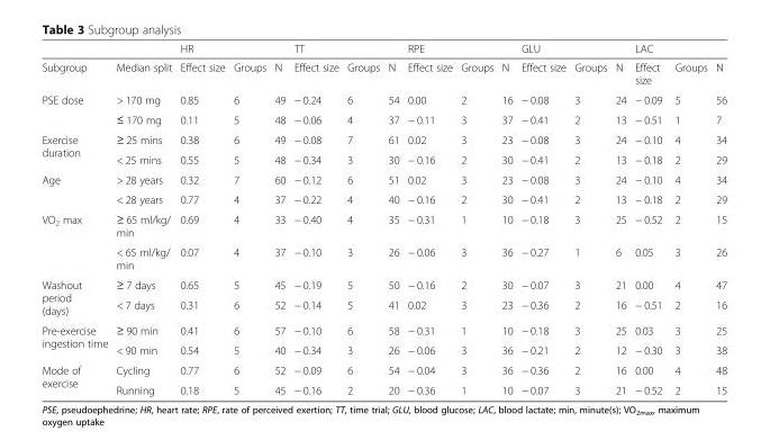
<table><thead><tr><td rowspan="2">Subgroup</td><td rowspan="2">Median split</td><td colspan="3">HR</td><td colspan="3">TT</td><td colspan="3">RPE</td><td colspan="3">GLU</td><td colspan="3">LAC</td></tr><tr><td>Effect size</td><td>Groups</td><td>N</td><td>Effect size</td><td>Groups</td><td>N</td><td>Effect size</td><td>Groups</td><td>N</td><td>Effect size</td><td>Groups</td><td>N</td><td>Effect size</td><td>Groups</td><td>N</td></tr></thead><tbody><tr><td rowspan="2">PSE dose</td><td>&gt; 170 mg</td><td>0.85</td><td>6</td><td>49</td><td>− 0.24</td><td>6</td><td>54</td><td>0.00</td><td>2</td><td>16</td><td>− 0.08</td><td>3</td><td>24</td><td>− 0.09</td><td>5</td><td>56</td></tr><tr><td>≤ 170 mg</td><td>0.11</td><td>5</td><td>48</td><td>− 0.06</td><td>4</td><td>37</td><td>− 0.11</td><td>3</td><td>37</td><td>− 0.41</td><td>2</td><td>13</td><td>− 0.51</td><td>1</td><td>7</td></tr><tr><td rowspan="2">Exercise duration</td><td>≥ 25 mins</td><td>0.38</td><td>6</td><td>49</td><td>− 0.08</td><td>7</td><td>61</td><td>0.02</td><td>3</td><td>23</td><td>− 0.08</td><td>3</td><td>24</td><td>− 0.10</td><td>4</td><td>34</td></tr><tr><td>&lt; 25 mins</td><td>0.55</td><td>5</td><td>48</td><td>− 0.34</td><td>3</td><td>30</td><td>− 0.16</td><td>2</td><td>30</td><td>− 0.41</td><td>2</td><td>13</td><td>− 0.18</td><td>2</td><td>29</td></tr><tr><td rowspan="2">Age</td><td>&gt; 28 years</td><td>0.32</td><td>7</td><td>60</td><td>− 0.12</td><td>6</td><td>51</td><td>0.02</td><td>3</td><td>23</td><td>− 0.08</td><td>3</td><td>24</td><td>− 0.10</td><td>4</td><td>34</td></tr><tr><td>&lt; 28 years</td><td>0.77</td><td>4</td><td>37</td><td>− 0.22</td><td>4</td><td>40</td><td>− 0.16</td><td>2</td><td>30</td><td>− 0.41</td><td>2</td><td>13</td><td>− 0.18</td><td>2</td><td>29</td></tr><tr><td rowspan="2">VO<sub>2</sub> max</td><td>≥ 65 ml/kg/ min</td><td>0.69</td><td>4</td><td>33</td><td>− 0.40</td><td>4</td><td>35</td><td>− 0.31</td><td>1</td><td>10</td><td>− 0.18</td><td>3</td><td>25</td><td>− 0.52</td><td>2</td><td>15</td></tr><tr><td>&lt; 65 ml/kg/ min</td><td>0.07</td><td>4</td><td>37</td><td>− 0.10</td><td>3</td><td>26</td><td>− 0.06</td><td>3</td><td>36</td><td>− 0.27</td><td>1</td><td>6</td><td>0.05</td><td>3</td><td>26</td></tr><tr><td rowspan="2">Washout period (days)</td><td>≥ 7 days</td><td>0.65</td><td>5</td><td>45</td><td>− 0.19</td><td>5</td><td>50</td><td>− 0.16</td><td>2</td><td>30</td><td>− 0.07</td><td>3</td><td>21</td><td>0.00</td><td>4</td><td>47</td></tr><tr><td>&lt; 7 days</td><td>0.31</td><td>6</td><td>52</td><td>− 0.14</td><td>5</td><td>41</td><td>0.02</td><td>3</td><td>23</td><td>− 0.36</td><td>2</td><td>16</td><td>− 0.51</td><td>2</td><td>16</td></tr><tr><td rowspan="2">Pre-exercise ingestion time</td><td>≥ 90 min</td><td>0.41</td><td>6</td><td>57</td><td>− 0.10</td><td>6</td><td>58</td><td>− 0.31</td><td>1</td><td>10</td><td>− 0.18</td><td>3</td><td>25</td><td>0.03</td><td>3</td><td>25</td></tr><tr><td>&lt; 90 min</td><td>0.54</td><td>5</td><td>40</td><td>− 0.34</td><td>3</td><td>26</td><td>− 0.06</td><td>3</td><td>36</td><td>− 0.21</td><td>2</td><td>12</td><td>− 0.30</td><td>3</td><td>38</td></tr><tr><td rowspan="2">Mode of exercise</td><td>Cycling</td><td>0.77</td><td>6</td><td>52</td><td>− 0.09</td><td>6</td><td>54</td><td>− 0.04</td><td>3</td><td>36</td><td>− 0.36</td><td>2</td><td>16</td><td>0.00</td><td>4</td><td>48</td></tr><tr><td>Running</td><td>0.18</td><td>5</td><td>45</td><td>− 0.16</td><td>2</td><td>20</td><td>− 0.36</td><td>1</td><td>10</td><td>− 0.07</td><td>3</td><td>21</td><td>− 0.52</td><td>2</td><td>15</td></tr></tbody></table>